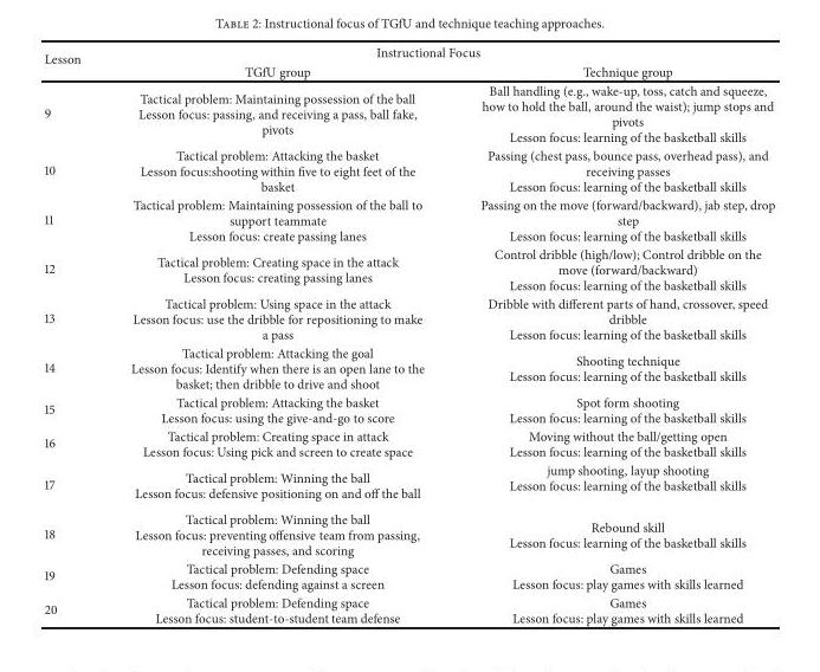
<table><thead><tr><td rowspan="2">Lesson</td><td colspan="2">Instructional Focus</td></tr><tr><td>TGfU group</td><td>Technique group</td></tr></thead><tbody><tr><td>9</td><td>Tactical problem: Maintaining possession of the ball Lesson focus: passing, and receiving a pass, ball fake, pivots</td><td>Ball handling (e.g., wake-up, toss, catch and squeeze, how to hold the ball, around the waist); jump stops and pivots Lesson focus: learning of the basketball skills</td></tr><tr><td>10</td><td>Tactical problem: Attacking the basket Lesson focus:shooting within five to eight feet of the basket</td><td>Passing (chest pass, bounce pass, overhead pass), and receiving passes Lesson focus: learning of the basketball skills</td></tr><tr><td>11</td><td>Tactical problem: Maintaining possession of the ball to support teammate Lesson focus: create passing lanes</td><td>Passing on the move (forward/backward), jab step, drop step Lesson focus: learning of the basketball skills</td></tr><tr><td>12</td><td>Tactical problem: Creating space in the attack Lesson focus: creating passing lanes</td><td>Control dribble (high/low); Control dribble on the move (forward/backward) Lesson focus: learning of the basketball skills</td></tr><tr><td>13</td><td>Tactical problem: Using space in the attack Lesson focus: use the dribble for repositioning to make a pass</td><td>Dribble with different parts of hand, crossover, speed dribble Lesson focus: learning of the basketball skills</td></tr><tr><td>14</td><td>Tactical problem: Attacking the goal Lesson focus: Identify when there is an open lane to the basket; then dribble to drive and shoot</td><td>Shooting technique Lesson focus: learning of the basketball skills</td></tr><tr><td>15</td><td>Tactical problem: Attacking the basket Lesson focus: using the give-and-go to score</td><td>Spot form shooting Lesson focus: learning of the basketball skills</td></tr><tr><td>16</td><td>Tactical problem: Creating space in attack Lesson focus: Using pick and screen to create space</td><td>Moving without the ball/getting open Lesson focus: learning of the basketball skills</td></tr><tr><td>17</td><td>Tactical problem: Winning the ball Lesson focus: defensive positioning on and off the ball</td><td>jump shooting, layup shooting Lesson focus: learning of the basketball skills</td></tr><tr><td>18</td><td>Tactical problem: Winning the ball Lesson focus: preventing offensive team from passing, receiving passes, and scoring</td><td>Rebound skill Lesson focus: learning of the basketball skills</td></tr><tr><td>19</td><td>Tactical problem: Defending space Lesson focus: defending against a screen</td><td>Games Lesson focus: play games with skills learned</td></tr><tr><td>20</td><td>Tactical problem: Defending space Lesson focus: student-to-student team defense</td><td>Games Lesson focus: play games with skills learned</td></tr></tbody></table>